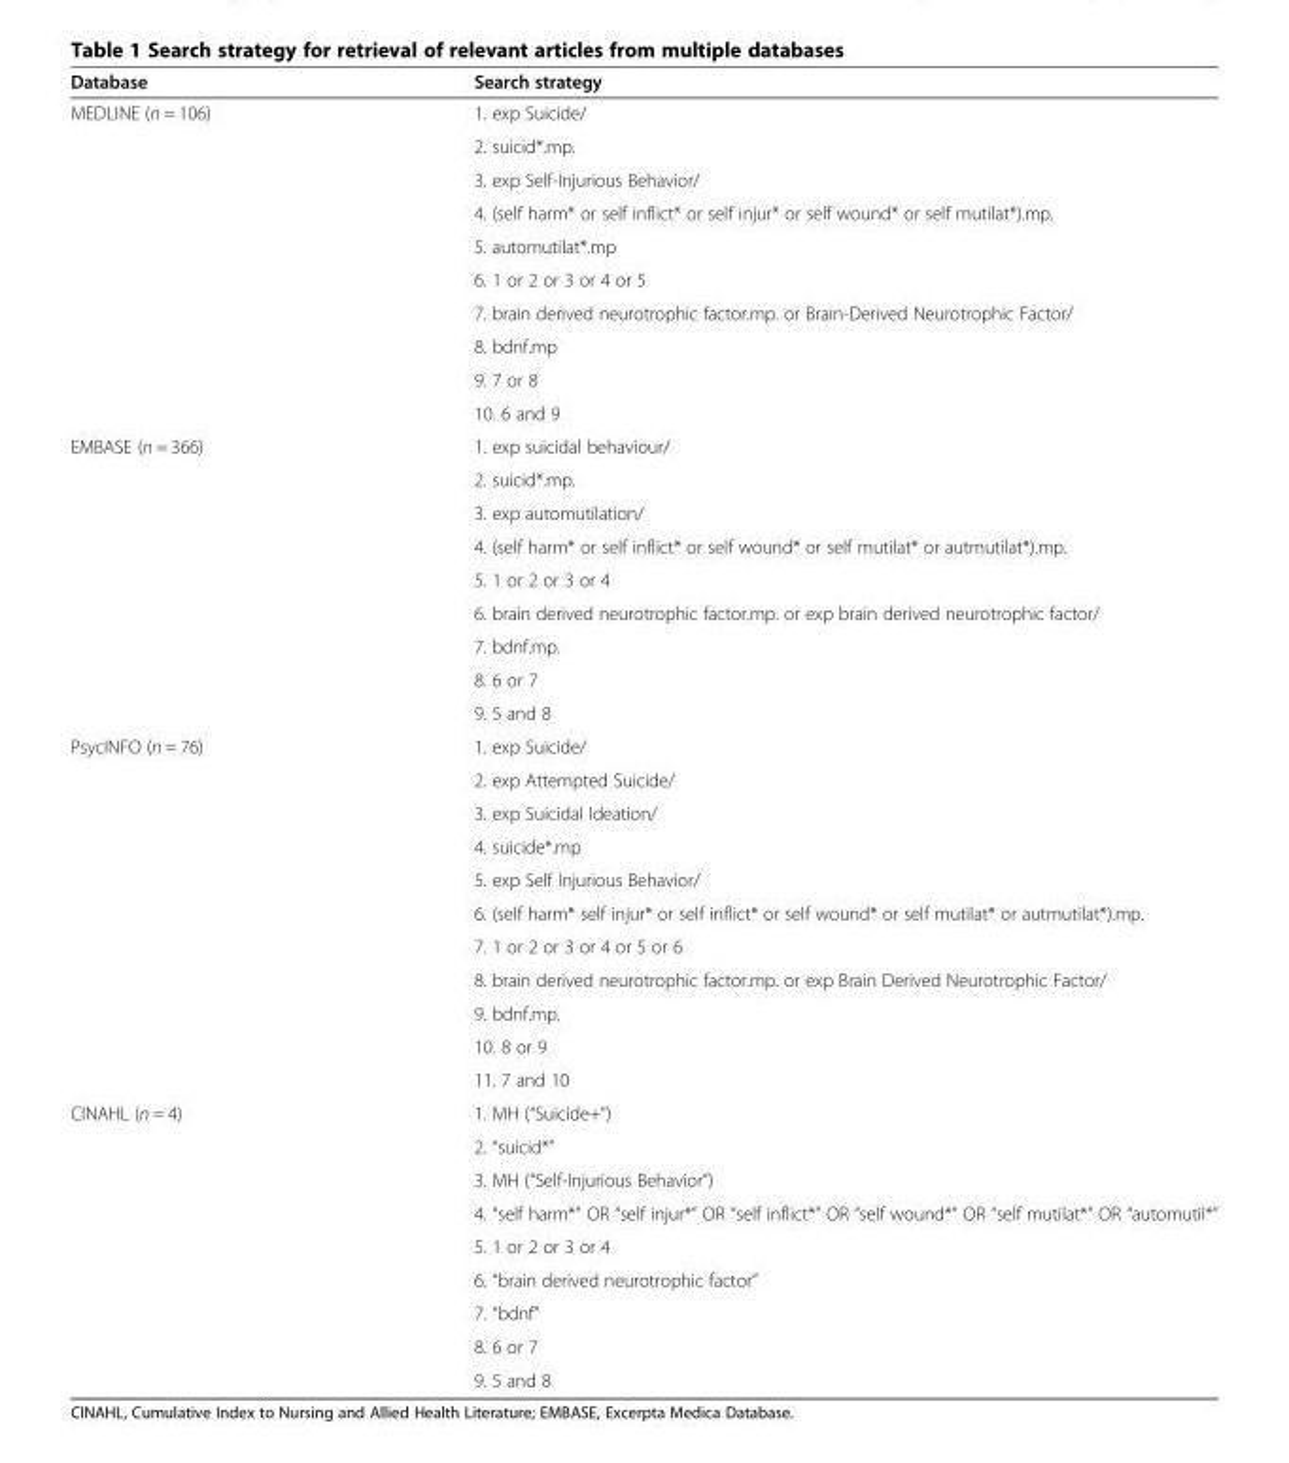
<table><thead><tr><td>Database</td><td>Search strategy</td></tr></thead><tbody><tr><td rowspan="10">MEDLINE (n = 106)</td><td>1. exp Suicide/</td></tr><tr><td>2. suicid*.mp.</td></tr><tr><td>3. exp Self-Injurious Behavior/</td></tr><tr><td>4. (self harm* or self inflict* or self injur* or self wound* or self mutilat*).mp.</td></tr><tr><td>5. automutilat*.mp</td></tr><tr><td>6. 1 or 2 or 3 or 4 or 5</td></tr><tr><td>7. brain derived neurotrophic factor.mp. or Brain-Derived Neurotrophic Factor/</td></tr><tr><td>8. bdnf.mp</td></tr><tr><td>9. 7 or 8</td></tr><tr><td>10. 6 and 9</td></tr><tr><td rowspan="9">EMBASE (n = 366)</td><td>1. exp suicidal behaviour/</td></tr><tr><td>2. suicid*.mp.</td></tr><tr><td>3. exp automutilation/</td></tr><tr><td>4. (self harm* or self inflict* or self wound* or self mutilat* or autmutilat*).mp.</td></tr><tr><td>5. 1 or 2 or 3 or 4</td></tr><tr><td>6. brain derived neurotrophic factor.mp. or exp brain derived neurotrophic factor/</td></tr><tr><td>7. bdnf.mp.</td></tr><tr><td>8. 6 or 7</td></tr><tr><td>9. 5 and 8</td></tr><tr><td rowspan="11">PsycINFO (n = 76)</td><td>1. exp Suicide/</td></tr><tr><td>2. exp Attempted Suicide/</td></tr><tr><td>3. exp Suicidal Ideation/</td></tr><tr><td>4. suicide*.mp</td></tr><tr><td>5. exp Self Injurious Behavior/</td></tr><tr><td>6. (self harm* self injur* or self inflict* or self wound* or self mutilat* or autmutilat*).mp.</td></tr><tr><td>7. 1 or 2 or 3 or 4 or 5 or 6</td></tr><tr><td>8. brain derived neurotrophic factor.mp. or exp Brain Derived Neurotrophic Factor/</td></tr><tr><td>9. bdnf.mp.</td></tr><tr><td>10. 8 or 9</td></tr><tr><td>11. 7 and 10</td></tr><tr><td rowspan="9">CINAHL (n = 4)</td><td>1. MH (“Suicide+”)</td></tr><tr><td>2. “suicid*”</td></tr><tr><td>3. MH (“Self-Injurious Behavior”)</td></tr><tr><td>4. “self harm*” OR “self injur*” OR “self inflict*” OR “self wound*” OR “self mutilat*” OR “automutil*”</td></tr><tr><td>5. 1 or 2 or 3 or 4</td></tr><tr><td>6. “brain derived neurotrophic factor”</td></tr><tr><td>7. “bdnf”</td></tr><tr><td>8. 6 or 7</td></tr><tr><td>9. 5 and 8</td></tr></tbody></table>